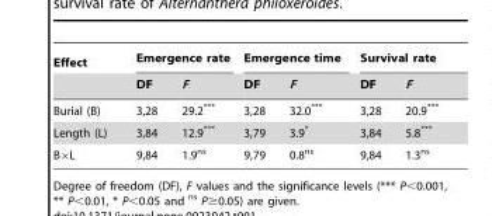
<table><thead><tr><td rowspan="2">Effect</td><td colspan="2">Emergence rate</td><td colspan="2">Emergence time</td><td colspan="2">Survival rate</td></tr><tr><td>DF</td><td>F</td><td>DF</td><td>F</td><td>DF</td><td>F</td></tr></thead><tbody><tr><td>Burial (B)</td><td>3,28</td><td>29.2***</td><td>3,28</td><td>32.0***</td><td>3,28</td><td>20.9***</td></tr><tr><td>Length (L)</td><td>3,84</td><td>12.9***</td><td>3,79</td><td>3.9*</td><td>3,84</td><td>5.8***</td></tr><tr><td>B×L</td><td>9,84</td><td>1.9<sup>ns</sup></td><td>9,79</td><td>0.8<sup>ns</sup></td><td>9,84</td><td>1.3<sup>ns</sup></td></tr></tbody></table>